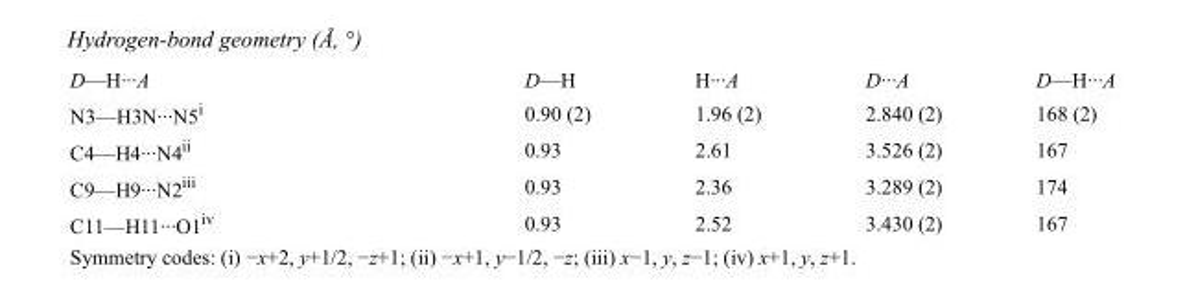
<table><tbody><tr><td>D—H···A</td><td>D—H</td><td>H···A</td><td>D···A</td><td>D—H···A</td></tr><tr><td>N3—H3N···N5<sup>i</sup></td><td>0.90 (2)</td><td>1.96 (2)</td><td>2.840 (2)</td><td>168 (2)</td></tr><tr><td>C4—H4···N4<sup>ii</sup></td><td>0.93</td><td>2.61</td><td>3.526 (2)</td><td>167</td></tr><tr><td>C9—H9···N2<sup>iii</sup></td><td>0.93</td><td>2.36</td><td>3.289 (2)</td><td>174</td></tr><tr><td>C11—H11···O1<sup>iv</sup></td><td>0.93</td><td>2.52</td><td>3.430 (2)</td><td>167</td></tr></tbody></table>